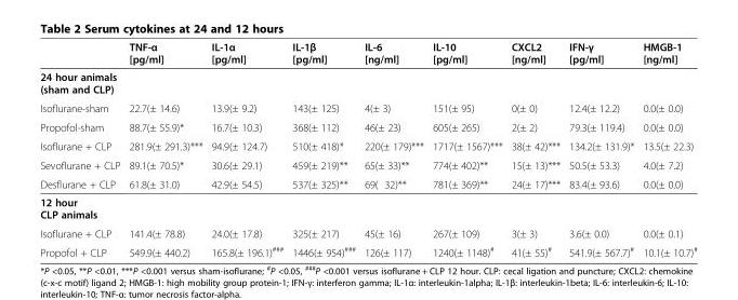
<table><thead><tr><td></td><td>TNF-α [pg/ml]</td><td>IL-1α [pg/ml]</td><td>IL-1β [pg/ml]</td><td>IL-6 [ng/ml]</td><td>IL-10 [pg/ml]</td><td>CXCL2 [ng/ml]</td><td>IFN-γ [pg/ml]</td><td>HMGB-1 [ng/ml]</td></tr></thead><tbody><tr><td colspan="9">24 hour animals (sham and CLP)</td></tr><tr><td>Isoflurane-sham</td><td>22.7(± 14.6)</td><td>13.9(± 9.2)</td><td>143(± 125)</td><td>4(± 3)</td><td>151(± 95)</td><td>0(± 0)</td><td>12.4(± 12.2)</td><td>0.0(± 0.0)</td></tr><tr><td>Propofol-sham</td><td>88.7(± 55.9)*</td><td>16.7(± 10.3)</td><td>368(± 112)</td><td>46(± 23)</td><td>605(± 265)</td><td>2(± 2)</td><td>79.3(± 119.4)</td><td>0.0(± 0.0)</td></tr><tr><td>Isoflurane + CLP</td><td>281.9(± 291.3)***</td><td>94.9(± 124.7)</td><td>510(± 418)*</td><td>220(± 179)***</td><td>1717(± 1567)***</td><td>38(± 42)***</td><td>134.2(± 131.9)*</td><td>13.5(± 22.3)</td></tr><tr><td>Sevoflurane + CLP</td><td>89.1(± 70.5)*</td><td>30.6(± 29.1)</td><td>459(± 219)**</td><td>65(± 33)**</td><td>774(± 402)**</td><td>15(± 13)***</td><td>50.5(± 53.3)</td><td>4.0(± 7.2)</td></tr><tr><td>Desflurane + CLP</td><td>61.8(± 31.0)</td><td>42.9(± 54.5)</td><td>537(± 325)**</td><td>69( 32)**</td><td>781(± 369)**</td><td>24(± 17)***</td><td>83.4(± 93.6)</td><td>0.0(± 0.0)</td></tr><tr><td colspan="9">12 hour CLP animals</td></tr><tr><td>Isoflurane + CLP</td><td>141.4(± 78.8)</td><td>24.0(± 17.8)</td><td>325(± 217)</td><td>45(± 16)</td><td>267(± 109)</td><td>3(± 3)</td><td>3.6(± 0.0)</td><td>0.0(± 0.1)</td></tr><tr><td>Propofol + CLP</td><td>549.9(± 440.2)</td><td>165.8(± 196.1)<sup>###</sup></td><td>1446(± 954)<sup>###</sup></td><td>126(± 117)</td><td>1240(± 1148)<sup>#</sup></td><td>41(± 55)<sup>#</sup></td><td>541.9(± 567.7)<sup>#</sup></td><td>10.1(± 10.7)<sup>#</sup></td></tr></tbody></table>